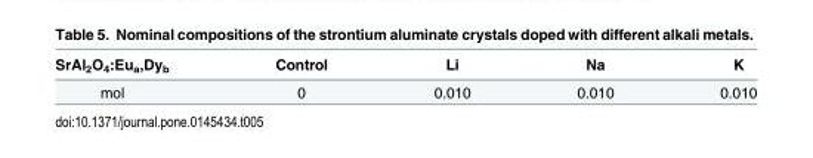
<table><thead><tr><td>SrAl<sub>2</sub>O<sub>4</sub>:Eu<sub>a</sub>,Dy<sub>b</sub></td><td>Control</td><td>Li</td><td>Na</td><td>K</td></tr></thead><tbody><tr><td>mol</td><td>0</td><td>0.010</td><td>0.010</td><td>0.010</td></tr></tbody></table>